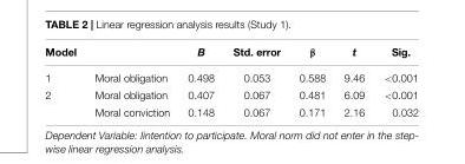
<table><thead><tr><td>Model</td><td></td><td>B</td><td>Std. error</td><td>β</td><td>t</td><td>Sig.</td></tr></thead><tbody><tr><td>1</td><td>Moral obligation</td><td>0.498</td><td>0.053</td><td>0.588</td><td>9.46</td><td>&lt;0.001</td></tr><tr><td rowspan="2">2</td><td>Moral obligation</td><td>0.407</td><td>0.067</td><td>0.481</td><td>6.09</td><td>&lt;0.001</td></tr><tr><td>Moral conviction</td><td>0.148</td><td>0.067</td><td>0.171</td><td>2.16</td><td>0.032</td></tr></tbody></table>